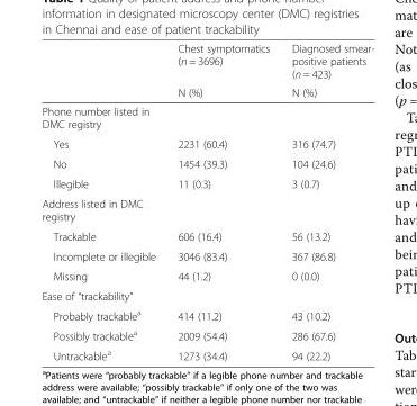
<table><thead><tr><td rowspan="2"></td><td rowspan="2">Chest symptomatics (n = 3696) N (%)</td><td rowspan="2">Diagnosed smear- positive patients (n = 423) N (%)</td></tr><tr></tr></thead><tbody><tr><td colspan="3">Phone number listed in DMC registry</td></tr><tr><td>Yes</td><td>2231 (60.4)</td><td>316 (74.7)</td></tr><tr><td>No</td><td>1454 (39.3)</td><td>104 (24.6)</td></tr><tr><td>Illegible</td><td>11 (0.3)</td><td>3 (0.7)</td></tr><tr><td colspan="3">Address listed in DMC registry</td></tr><tr><td>Trackable</td><td>606 (16.4)</td><td>56 (13.2)</td></tr><tr><td>Incomplete or illegible</td><td>3046 (83.4)</td><td>367 (86.8)</td></tr><tr><td>Missing</td><td>44 (1.2)</td><td>0 (0.0)</td></tr><tr><td colspan="3">Ease of “trackability”</td></tr><tr><td>Probably trackable<sup>a</sup></td><td>414 (11.2)</td><td>43 (10.2)</td></tr><tr><td>Possibly trackable<sup>a</sup></td><td>2009 (54.4)</td><td>286 (67.6)</td></tr><tr><td>Untrackable<sup>a</sup></td><td>1273 (34.4)</td><td>94 (22.2)</td></tr></tbody></table>